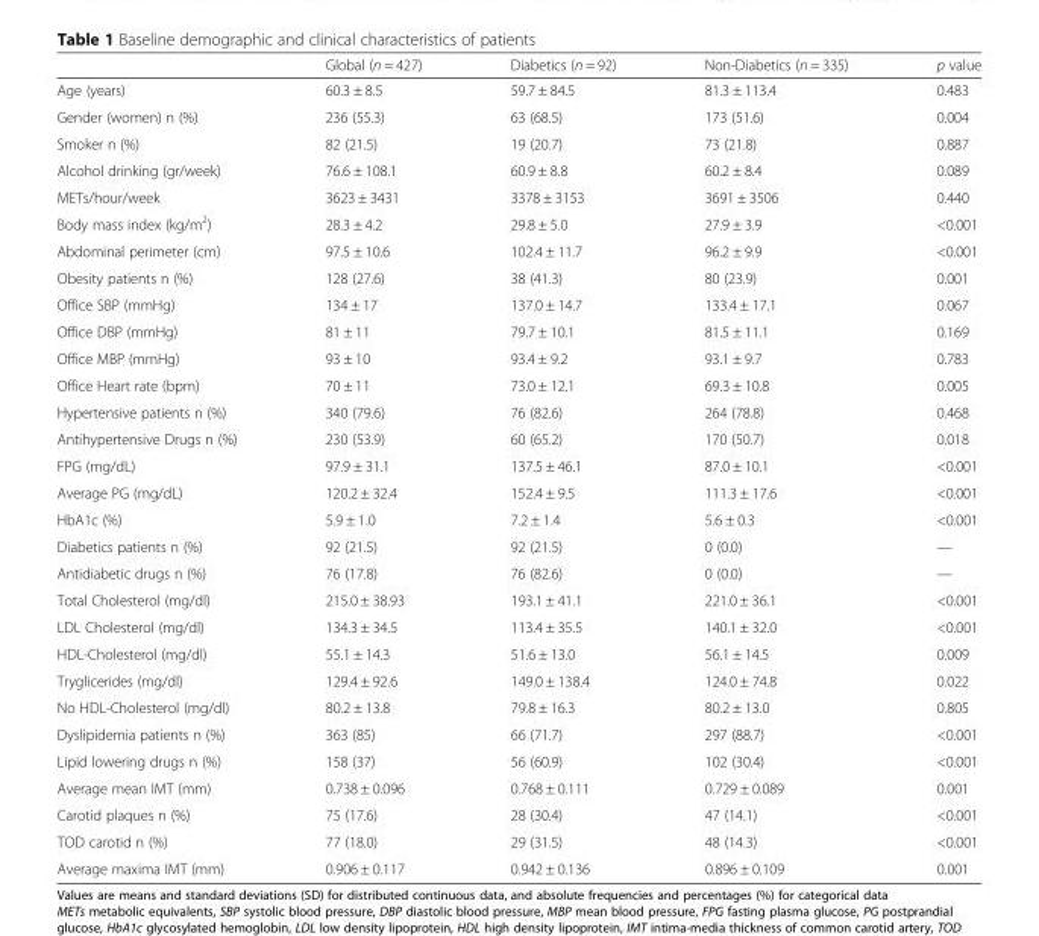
<table><thead><tr><td></td><td>Global (n = 427)</td><td>Diabetics (n = 92)</td><td>Non-Diabetics (n = 335)</td><td>p value</td></tr></thead><tbody><tr><td>Age (years)</td><td>60.3 ± 8.5</td><td>59.7 ± 84.5</td><td>81.3 ± 113.4</td><td>0.483</td></tr><tr><td>Gender (women) n (%)</td><td>236 (55.3)</td><td>63 (68.5)</td><td>173 (51.6)</td><td>0.004</td></tr><tr><td>Smoker n (%)</td><td>82 (21.5)</td><td>19 (20.7)</td><td>73 (21.8)</td><td>0.887</td></tr><tr><td>Alcohol drinking (gr/week)</td><td>76.6 ± 108.1</td><td>60.9 ± 8.8</td><td>60.2 ± 8.4</td><td>0.089</td></tr><tr><td>METs/hour/week</td><td>3623 ± 3431</td><td>3378 ± 3153</td><td>3691 ± 3506</td><td>0.440</td></tr><tr><td>Body mass index (kg/m<sup>2</sup>)</td><td>28.3 ± 4.2</td><td>29.8 ± 5.0</td><td>27.9 ± 3.9</td><td>&lt;0.001</td></tr><tr><td>Abdominal perimeter (cm)</td><td>97.5 ± 10.6</td><td>102.4 ± 11.7</td><td>96.2 ± 9.9</td><td>&lt;0.001</td></tr><tr><td>Obesity patients n (%)</td><td>128 (27.6)</td><td>38 (41.3)</td><td>80 (23.9)</td><td>0.001</td></tr><tr><td>Office SBP (mmHg)</td><td>134 ± 17</td><td>137.0 ± 14.7</td><td>133.4 ± 17.1</td><td>0.067</td></tr><tr><td>Office DBP (mmHg)</td><td>81 ± 11</td><td>79.7 ± 10.1</td><td>81.5 ± 11.1</td><td>0.169</td></tr><tr><td>Office MBP (mmHg)</td><td>93 ± 10</td><td>93.4 ± 9.2</td><td>93.1 ± 9.7</td><td>0.783</td></tr><tr><td>Office Heart rate (bpm)</td><td>70 ± 11</td><td>73.0 ± 12.1</td><td>69.3 ± 10.8</td><td>0.005</td></tr><tr><td>Hypertensive patients n (%)</td><td>340 (79.6)</td><td>76 (82.6)</td><td>264 (78.8)</td><td>0.468</td></tr><tr><td>Antihypertensive Drugs n (%)</td><td>230 (53.9)</td><td>60 (65.2)</td><td>170 (50.7)</td><td>0.018</td></tr><tr><td>FPG (mg/dL)</td><td>97.9 ± 31.1</td><td>137.5 ± 46.1</td><td>87.0 ± 10.1</td><td>&lt;0.001</td></tr><tr><td>Average PG (mg/dL)</td><td>120.2 ± 32.4</td><td>152.4 ± 9.5</td><td>111.3 ± 17.6</td><td>&lt;0.001</td></tr><tr><td>HbA1c (%)</td><td>5.9 ± 1.0</td><td>7.2 ± 1.4</td><td>5.6 ± 0.3</td><td>&lt;0.001</td></tr><tr><td>Diabetics patients n (%)</td><td>92 (21.5)</td><td>92 (21.5)</td><td>0 (0.0)</td><td>—</td></tr><tr><td>Antidiabetic drugs n (%)</td><td>76 (17.8)</td><td>76 (82.6)</td><td>0 (0.0)</td><td>—</td></tr><tr><td>Total Cholesterol (mg/dl)</td><td>215.0 ± 38.93</td><td>193.1 ± 41.1</td><td>221.0 ± 36.1</td><td>&lt;0.001</td></tr><tr><td>LDL Cholesterol (mg/dl)</td><td>134.3 ± 34.5</td><td>113.4 ± 35.5</td><td>140.1 ± 32.0</td><td>&lt;0.001</td></tr><tr><td>HDL-Cholesterol (mg/dl)</td><td>55.1 ± 14.3</td><td>51.6 ± 13.0</td><td>56.1 ± 14.5</td><td>0.009</td></tr><tr><td>Tryglicerides (mg/dl)</td><td>129.4 ± 92.6</td><td>149.0 ± 138.4</td><td>124.0 ± 74.8</td><td>0.022</td></tr><tr><td>No HDL-Cholesterol (mg/dl)</td><td>80.2 ± 13.8</td><td>79.8 ± 16.3</td><td>80.2 ± 13.0</td><td>0.805</td></tr><tr><td>Dyslipidemia patients n (%)</td><td>363 (85)</td><td>66 (71.7)</td><td>297 (88.7)</td><td>&lt;0.001</td></tr><tr><td>Lipid lowering drugs n (%)</td><td>158 (37)</td><td>56 (60.9)</td><td>102 (30.4)</td><td>&lt;0.001</td></tr><tr><td>Average mean IMT (mm)</td><td>0.738 ± 0.096</td><td>0.768 ± 0.111</td><td>0.729 ± 0.089</td><td>0.001</td></tr><tr><td>Carotid plaques n (%)</td><td>75 (17.6)</td><td>28 (30.4)</td><td>47 (14.1)</td><td>&lt;0.001</td></tr><tr><td>TOD carotid n (%)</td><td>77 (18.0)</td><td>29 (31.5)</td><td>48 (14.3)</td><td>&lt;0.001</td></tr><tr><td>Average maxima IMT (mm)</td><td>0.906 ± 0.117</td><td>0.942 ± 0.136</td><td>0.896 ± 0.109</td><td>0.001</td></tr></tbody></table>